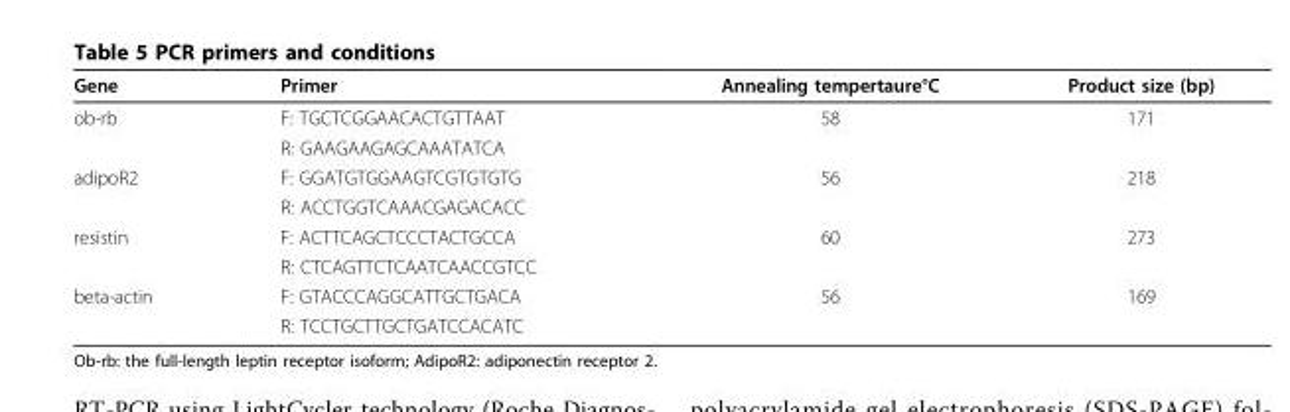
<table><thead><tr><td>Gene</td><td>Primer</td><td>Annealing tempertaure°C</td><td>Product size (bp)</td></tr></thead><tbody><tr><td rowspan="2">ob-rb</td><td>F: TGCTCGGAACACTGTTAAT</td><td>58</td><td>171</td></tr><tr><td>R: GAAGAAGAGCAAATATCA</td><td></td><td></td></tr><tr><td rowspan="2">adipoR2</td><td>F: GGATGTGGAAGTCGTGTGTG</td><td>56</td><td>218</td></tr><tr><td>R: ACCTGGTCAAACGAGACACC</td><td></td><td></td></tr><tr><td rowspan="2">resistin</td><td>F: ACTTCAGCTCCCTACTGCCA</td><td>60</td><td>273</td></tr><tr><td>R: CTCAGTTCTCAATCAACCGTCC</td><td></td><td></td></tr><tr><td rowspan="2">beta-actin</td><td>F: GTACCCAGGCATTGCTGACA</td><td>56</td><td>169</td></tr><tr><td>R: TCCTGCTTGCTGATCCACATC</td><td></td><td></td></tr></tbody></table>